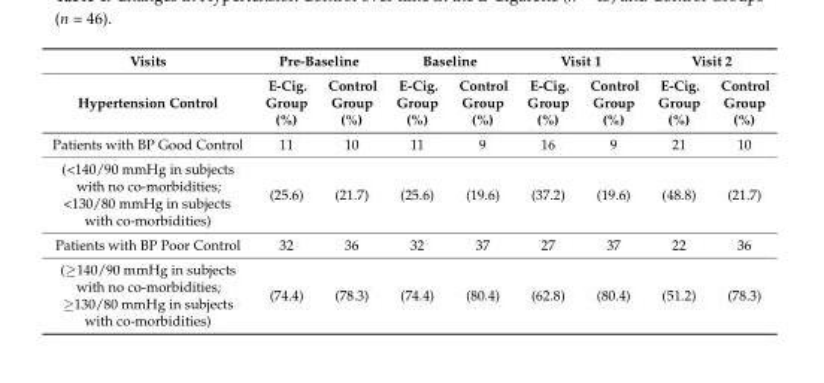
<table><thead><tr><td rowspan="2">Visits Hypertension Control</td><td colspan="2">Pre-Baseline</td><td colspan="2">Baseline</td><td colspan="2">Visit 1</td><td colspan="2">Visit 2</td></tr><tr><td>E-Cig. Group (%)</td><td>Control Group (%)</td><td>E-Cig. Group (%)</td><td>Control Group (%)</td><td>E-Cig. Group (%)</td><td>Control Group (%)</td><td>E-Cig. Group (%)</td><td>Control Group (%)</td></tr></thead><tbody><tr><td>Patients with BP Good Control</td><td>11</td><td>10</td><td>11</td><td>9</td><td>16</td><td>9</td><td>21</td><td>10</td></tr><tr><td>(&lt;140/90 mmHg in subjects with no co-morbidities; &lt;130/80 mmHg in subjects with co-morbidities)</td><td>(25.6)</td><td>(21.7)</td><td>(25.6)</td><td>(19.6)</td><td>(37.2)</td><td>(19.6)</td><td>(48.8)</td><td>(21.7)</td></tr><tr><td>Patients with BP Poor Control</td><td>32</td><td>36</td><td>32</td><td>37</td><td>27</td><td>37</td><td>22</td><td>36</td></tr><tr><td>(≥140/90 mmHg in subjects with no co-morbidities; ≥130/80 mmHg in subjects with co-morbidities)</td><td>(74.4)</td><td>(78.3)</td><td>(74.4)</td><td>(80.4)</td><td>(62.8)</td><td>(80.4)</td><td>(51.2)</td><td>(78.3)</td></tr></tbody></table>